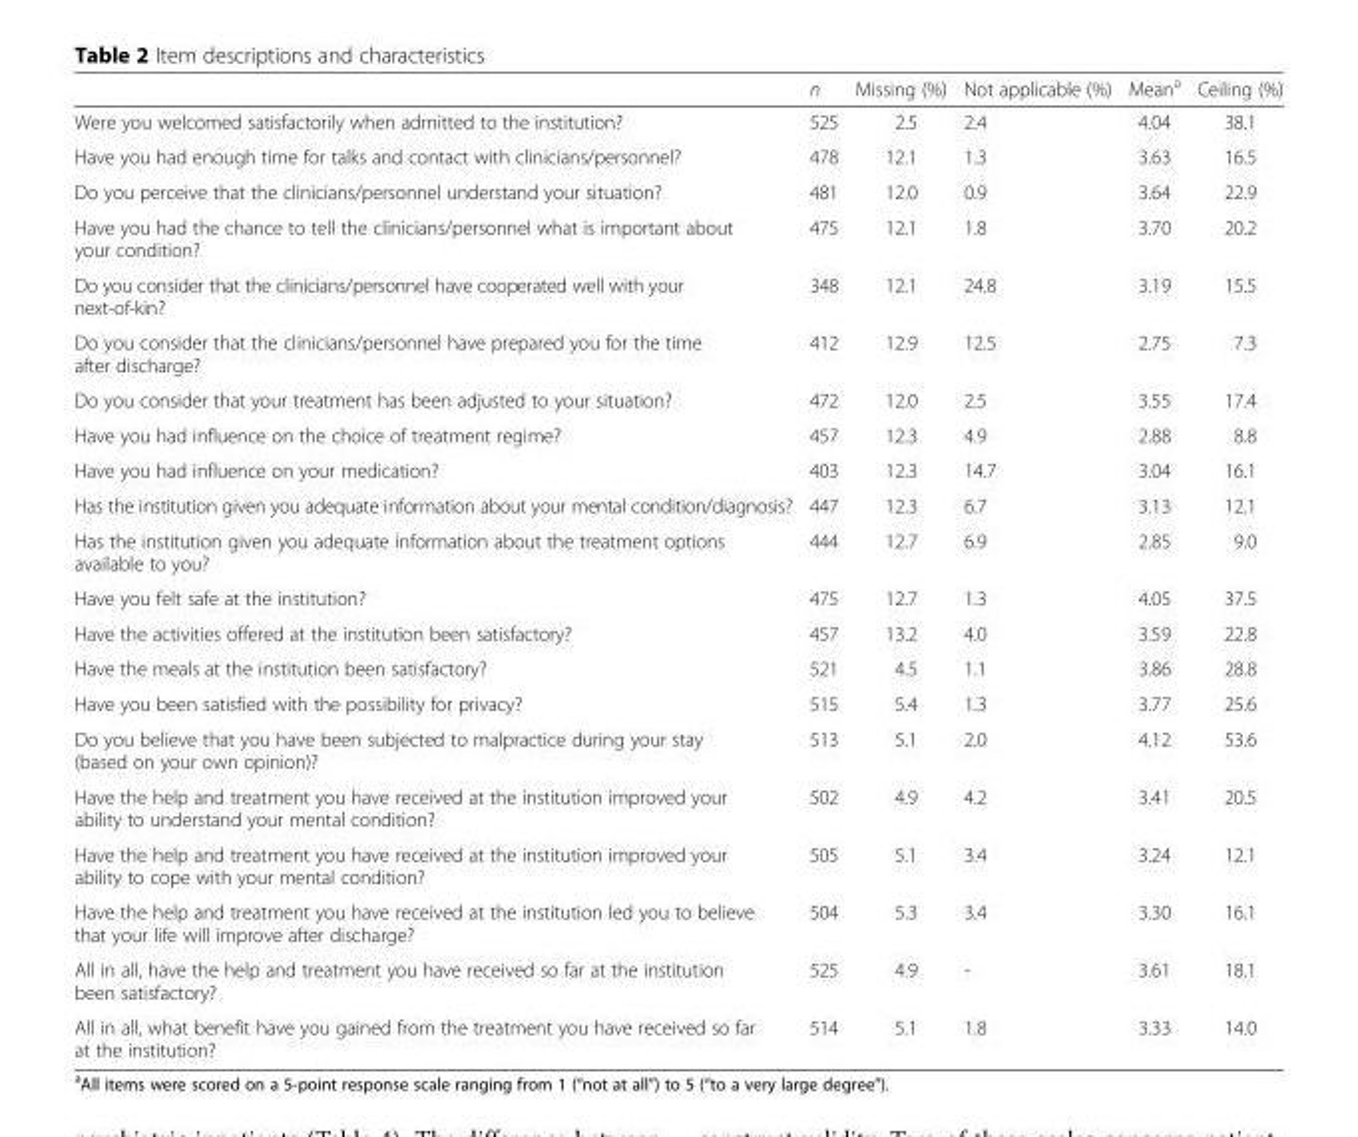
<table><thead><tr><td></td><td>n</td><td>Missing (%)</td><td>Not applicable (%)</td><td>Mean<sup>a</sup></td><td>Ceiling (%)</td></tr></thead><tbody><tr><td>Were you welcomed satisfactorily when admitted to the institution?</td><td>525</td><td>2.5</td><td>2.4</td><td>4.04</td><td>38.1</td></tr><tr><td>Have you had enough time for talks and contact with clinicians/personnel?</td><td>478</td><td>12.1</td><td>1.3</td><td>3.63</td><td>16.5</td></tr><tr><td>Do you perceive that the clinicians/personnel understand your situation?</td><td>481</td><td>12.0</td><td>0.9</td><td>3.64</td><td>22.9</td></tr><tr><td>Have you had the chance to tell the clinicians/personnel what is important about your condition?</td><td>475</td><td>12.1</td><td>1.8</td><td>3.70</td><td>20.2</td></tr><tr><td>Do you consider that the clinicians/personnel have cooperated well with your next-of-kin?</td><td>348</td><td>12.1</td><td>24.8</td><td>3.19</td><td>15.5</td></tr><tr><td>Do you consider that the clinicians/personnel have prepared you for the time after discharge?</td><td>412</td><td>12.9</td><td>12.5</td><td>2.75</td><td>7.3</td></tr><tr><td>Do you consider that your treatment has been adjusted to your situation?</td><td>472</td><td>12.0</td><td>2.5</td><td>3.55</td><td>17.4</td></tr><tr><td>Have you had influence on the choice of treatment regime?</td><td>457</td><td>12.3</td><td>4.9</td><td>2.88</td><td>8.8</td></tr><tr><td>Have you had influence on your medication?</td><td>403</td><td>12.3</td><td>14.7</td><td>3.04</td><td>16.1</td></tr><tr><td>Has the institution given you adequate information about your mental condition/diagnosis?</td><td>447</td><td>12.3</td><td>6.7</td><td>3.13</td><td>12.1</td></tr><tr><td>Has the institution given you adequate information about the treatment options available to you?</td><td>444</td><td>12.7</td><td>6.9</td><td>2.85</td><td>9.0</td></tr><tr><td>Have you felt safe at the institution?</td><td>475</td><td>12.7</td><td>1.3</td><td>4.05</td><td>37.5</td></tr><tr><td>Have the activities offered at the institution been satisfactory?</td><td>457</td><td>13.2</td><td>4.0</td><td>3.59</td><td>22.8</td></tr><tr><td>Have the meals at the institution been satisfactory?</td><td>521</td><td>4.5</td><td>1.1</td><td>3.86</td><td>28.8</td></tr><tr><td>Have you been satisfied with the possibility for privacy?</td><td>515</td><td>5.4</td><td>1.3</td><td>3.77</td><td>25.6</td></tr><tr><td>Do you believe that you have been subjected to malpractice during your stay (based on your own opinion)?</td><td>513</td><td>5.1</td><td>2.0</td><td>4.12</td><td>53.6</td></tr><tr><td>Have the help and treatment you have received at the institution improved your ability to understand your mental condition?</td><td>502</td><td>4.9</td><td>4.2</td><td>3.41</td><td>20.5</td></tr><tr><td>Have the help and treatment you have received at the institution improved your ability to cope with your mental condition?</td><td>505</td><td>5.1</td><td>3.4</td><td>3.24</td><td>12.1</td></tr><tr><td>Have the help and treatment you have received at the institution led you to believe that your life will improve after discharge?</td><td>504</td><td>5.3</td><td>3.4</td><td>3.30</td><td>16.1</td></tr><tr><td>All in all, have the help and treatment you have received so far at the institution been satisfactory?</td><td>525</td><td>4.9</td><td>-</td><td>3.61</td><td>18.1</td></tr><tr><td>All in all, what benefit have you gained from the treatment you have received so far at the institution?</td><td>514</td><td>5.1</td><td>1.8</td><td>3.33</td><td>14.0</td></tr></tbody></table>